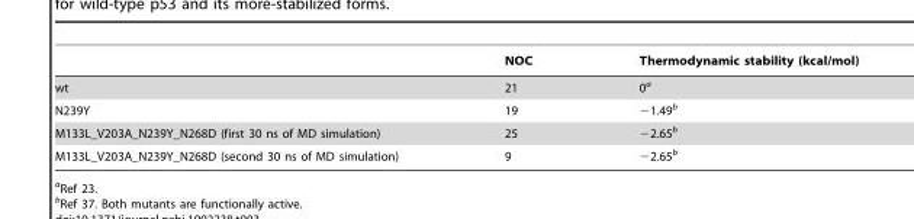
<table><thead><tr><td></td><td>NOC</td><td>Thermodynamic stability (kcal/mol)</td></tr></thead><tbody><tr><td>wt</td><td>21</td><td>0<sup>a</sup></td></tr><tr><td>N239Y</td><td>19</td><td>−1.49<sup>b</sup></td></tr><tr><td>M133L_V203A_N239Y_N268D (first 30 ns of MD simulation)</td><td>25</td><td>−2.65<sup>b</sup></td></tr><tr><td>M133L_V203A_N239Y_N268D (second 30 ns of MD simulation)</td><td>9</td><td>−2.65<sup>b</sup></td></tr></tbody></table>